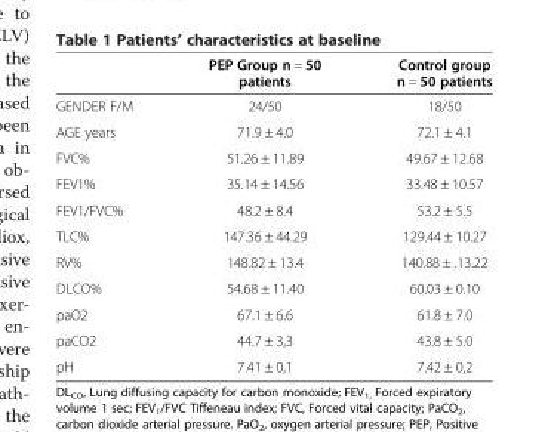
<table><thead><tr><td></td><td>PEP Group n = 50 patients</td><td>Control group n = 50 patients</td></tr></thead><tbody><tr><td>GENDER F/M</td><td>24/50</td><td>18/50</td></tr><tr><td>AGE years</td><td>71.9 ± 4.0</td><td>72.1 ± 4.1</td></tr><tr><td>FVC%</td><td>51.26 ± 11.89</td><td>49.67 ± 12.68</td></tr><tr><td>FEV1%</td><td>35.14 ± 14.56</td><td>33.48 ± 10.57</td></tr><tr><td>FEV1/FVC%</td><td>48.2 ± 8.4</td><td>53.2 ± 5.5</td></tr><tr><td>TLC%</td><td>147.36 ± 44.29</td><td>129.44 ± 10.27</td></tr><tr><td>RV%</td><td>148.82 ± 13.4</td><td>140.88 ± .13.22</td></tr><tr><td>DLCO%</td><td>54.68 ± 11.40</td><td>60.03 ± 0.10</td></tr><tr><td>paO2</td><td>67.1 ± 6.6</td><td>61.8 ± 7.0</td></tr><tr><td>paCO2</td><td>44.7 ± 3,3</td><td>43.8 ± 5.0</td></tr><tr><td>pH</td><td>7.41 ± 0,1</td><td>7.42 ± 0,2</td></tr></tbody></table>